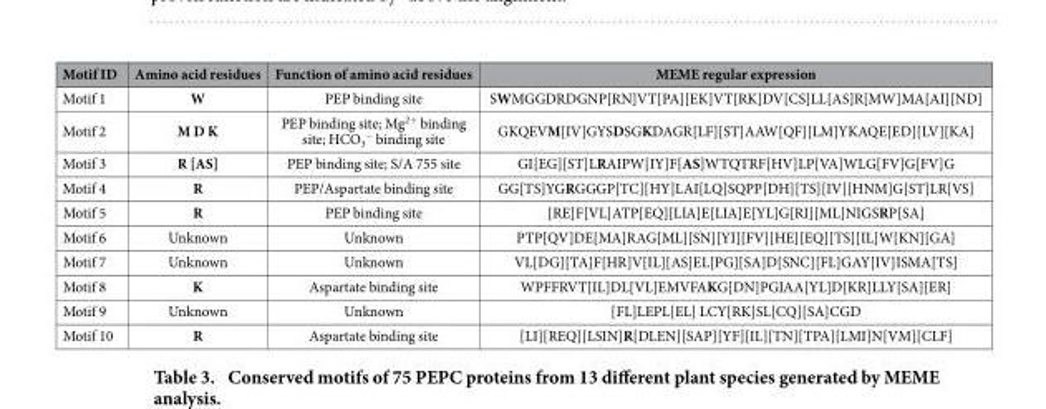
<table><thead><tr><td>Motif ID</td><td>Amino acid residues</td><td>Function of amino acid residues</td><td>MEME regular expression</td></tr></thead><tbody><tr><td>Motif 1</td><td>W</td><td>PEP binding site</td><td>SWMGGDRDGNP[RN]VT[PA][EK]VT[RK]DV[CS]LL[AS]R[MW]MA[AI][ND]</td></tr><tr><td>Motif 2</td><td>M D K</td><td>PEP binding site; Mg<sup>2+</sup> binding site; HCO<sub>3</sub> <sup>−</sup> binding site</td><td>GKQEVM[IV]GYSDSGKDAGR[LF][ST]AAW[QF][LM]YKAQE[ED][LV][KA]</td></tr><tr><td>Motif 3</td><td>R [AS]</td><td>PEP binding site; S/A 755 site</td><td>GI[EG][ST]LRAIPW[IY]F[AS]WTQTRF[HV]LP[VA]WLG[FV]G[FV]G</td></tr><tr><td>Motif 4</td><td>R</td><td>PEP/Aspartate binding site</td><td>GG[TS]YGRGGGP[TC][HY]LAI[LQ]SQPP[DH][TS][IV][HNM]G[ST]LR[VS]</td></tr><tr><td>Motif 5</td><td>R</td><td>PEP binding site</td><td>[RE]F[VL]ATP[EQ][LIA]E[LIA]E[YL]G[RI][ML]NIGSRP[SA]</td></tr><tr><td>Motif 6</td><td>Unknown</td><td>Unknown</td><td>PTP[QV]DE[MA]RAG[ML][SN][YI][FV][HE][EQ][TS][IL]W[KN][GA]</td></tr><tr><td>Motif 7</td><td>Unknown</td><td>Unknown</td><td>VL[DG][TA]F[HR]V[IL][AS]EL[PG][SA]D[SNC][FL]GAY[IV]ISMA[TS]</td></tr><tr><td>Motif 8</td><td>K</td><td>Aspartate binding site</td><td>WPFFRVT[IL]DL[VL]EMVFAKG[DN]PGIAA[YL]D[KR]LLY[SA][ER]</td></tr><tr><td>Motif 9</td><td>Unknown</td><td>Unknown</td><td>[FL]LEPL[EL] LCY[RK]SL[CQ][SA]CGD</td></tr><tr><td>Motif 10</td><td>R</td><td>Aspartate binding site</td><td>[LI][REQ][LSIN]R[DLEN][SAP][YF][IL][TN][TPA][LMI]N[VM][CLF]</td></tr></tbody></table>